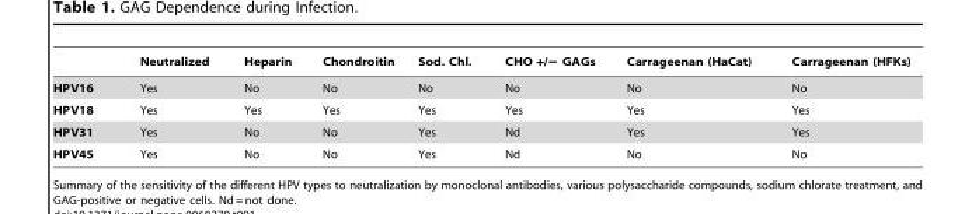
<table><thead><tr><td></td><td>Neutralized</td><td>Heparin</td><td>Chondroitin</td><td>Sod. Chl.</td><td>CHO +/− GAGs</td><td>Carrageenan (HaCat)</td><td>Carrageenan (HFKs)</td></tr></thead><tbody><tr><td>HPV16</td><td>Yes</td><td>No</td><td>No</td><td>No</td><td>No</td><td>No</td><td>No</td></tr><tr><td>HPV18</td><td>Yes</td><td>Yes</td><td>Yes</td><td>Yes</td><td>Yes</td><td>Yes</td><td>Yes</td></tr><tr><td>HPV31</td><td>Yes</td><td>No</td><td>No</td><td>Yes</td><td>Nd</td><td>Yes</td><td>Yes</td></tr><tr><td>HPV45</td><td>Yes</td><td>No</td><td>No</td><td>Yes</td><td>Nd</td><td>No</td><td>No</td></tr></tbody></table>